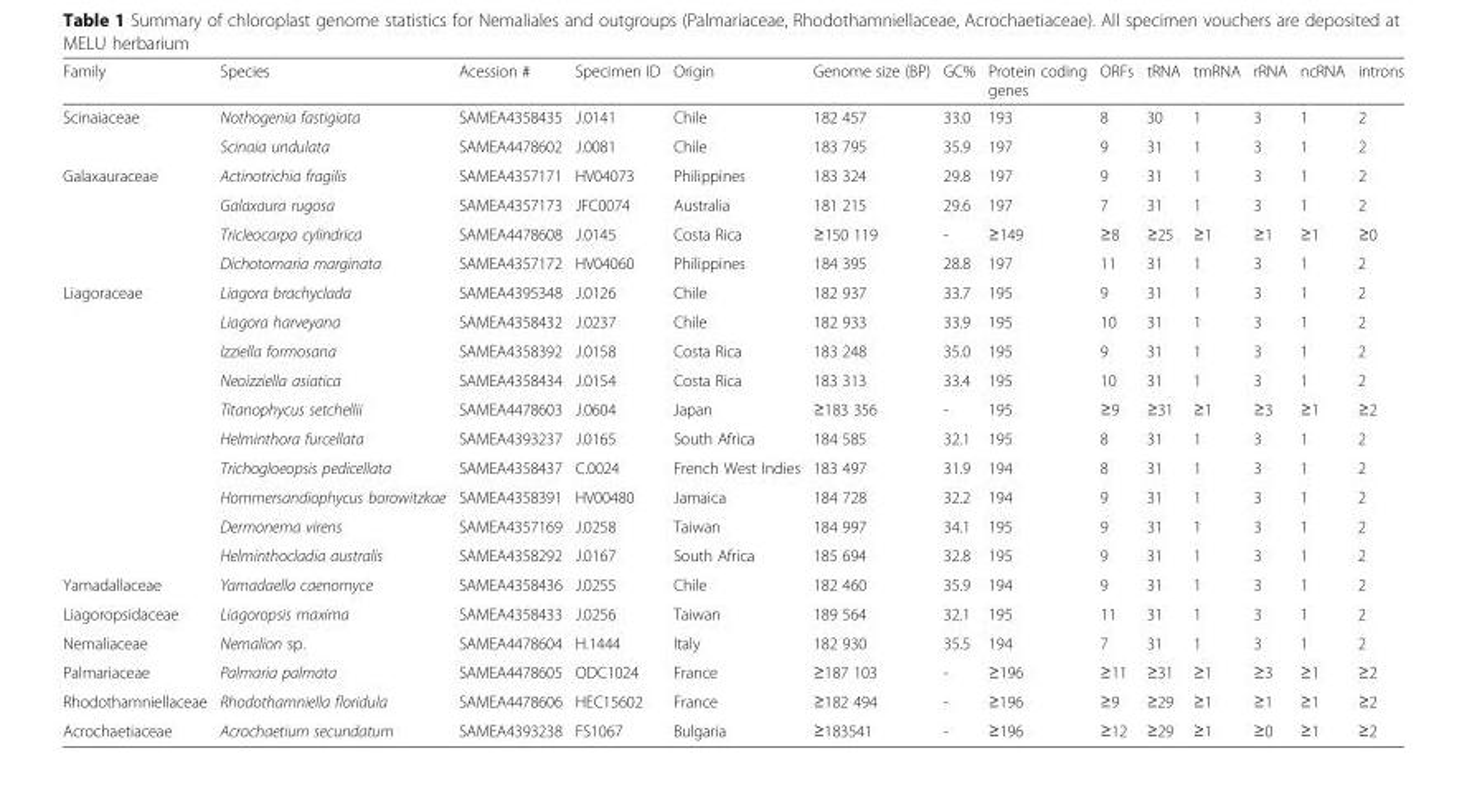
<table><thead><tr><td>Family</td><td>Species</td><td>Acession #</td><td>Specimen ID</td><td>Origin</td><td>Genome size (BP)</td><td>GC%</td><td>Protein coding genes</td><td>ORFs</td><td>tRNA</td><td>tmRNA</td><td>rRNA</td><td>ncRNA</td><td>introns</td></tr></thead><tbody><tr><td rowspan="2">Scinaiaceae</td><td>Nothogenia fastigiata</td><td>SAMEA4358435</td><td>J.0141</td><td>Chile</td><td>182 457</td><td>33.0</td><td>193</td><td>8</td><td>30</td><td>1</td><td>3</td><td>1</td><td>2</td></tr><tr><td>Scinaia undulata</td><td>SAMEA4478602</td><td>J.0081</td><td>Chile</td><td>183 795</td><td>35.9</td><td>197</td><td>9</td><td>31</td><td>1</td><td>3</td><td>1</td><td>2</td></tr><tr><td rowspan="4">Galaxauraceae</td><td>Actinotrichia fragilis</td><td>SAMEA4357171</td><td>HV04073</td><td>Philippines</td><td>183 324</td><td>29.8</td><td>197</td><td>9</td><td>31</td><td>1</td><td>3</td><td>1</td><td>2</td></tr><tr><td>Galaxaura rugosa</td><td>SAMEA4357173</td><td>JFC0074</td><td>Australia</td><td>181 215</td><td>29.6</td><td>197</td><td>7</td><td>31</td><td>1</td><td>3</td><td>1</td><td>2</td></tr><tr><td>Tricleocarpa cylindrica</td><td>SAMEA4478608</td><td>J.0145</td><td>Costa Rica</td><td>≥150 119</td><td>-</td><td>≥149</td><td>≥8</td><td>≥25</td><td>≥1</td><td>≥1</td><td>≥1</td><td>≥0</td></tr><tr><td>Dichotomaria marginata</td><td>SAMEA4357172</td><td>HV04060</td><td>Philippines</td><td>184 395</td><td>28.8</td><td>197</td><td>11</td><td>31</td><td>1</td><td>3</td><td>1</td><td>2</td></tr><tr><td rowspan="10">Liagoraceae</td><td>Liagora brachyclada</td><td>SAMEA4395348</td><td>J.0126</td><td>Chile</td><td>182 937</td><td>33.7</td><td>195</td><td>9</td><td>31</td><td>1</td><td>3</td><td>1</td><td>2</td></tr><tr><td>Liagora harveyana</td><td>SAMEA4358432</td><td>J.0237</td><td>Chile</td><td>182 933</td><td>33.9</td><td>195</td><td>10</td><td>31</td><td>1</td><td>3</td><td>1</td><td>2</td></tr><tr><td>Izziella formosana</td><td>SAMEA4358392</td><td>J.0158</td><td>Costa Rica</td><td>183 248</td><td>35.0</td><td>195</td><td>9</td><td>31</td><td>1</td><td>3</td><td>1</td><td>2</td></tr><tr><td>Neoizziella asiatica</td><td>SAMEA4358434</td><td>J.0154</td><td>Costa Rica</td><td>183 313</td><td>33.4</td><td>195</td><td>10</td><td>31</td><td>1</td><td>3</td><td>1</td><td>2</td></tr><tr><td>Titanophycus setchellii</td><td>SAMEA4478603</td><td>J.0604</td><td>Japan</td><td>≥183 356</td><td>-</td><td>195</td><td>≥9</td><td>≥31</td><td>≥1</td><td>≥3</td><td>≥1</td><td>≥2</td></tr><tr><td>Helminthora furcellata</td><td>SAMEA4393237</td><td>J.0165</td><td>South Africa</td><td>184 585</td><td>32.1</td><td>195</td><td>8</td><td>31</td><td>1</td><td>3</td><td>1</td><td>2</td></tr><tr><td>Trichogloeopsis pedicellata</td><td>SAMEA4358437</td><td>C.0024</td><td>French West Indies</td><td>183 497</td><td>31.9</td><td>194</td><td>8</td><td>31</td><td>1</td><td>3</td><td>1</td><td>2</td></tr><tr><td>Hommersandiophycus borowitzkae</td><td>SAMEA4358391</td><td>HV00480</td><td>Jamaica</td><td>184 728</td><td>32.2</td><td>194</td><td>9</td><td>31</td><td>1</td><td>3</td><td>1</td><td>2</td></tr><tr><td>Dermonema virens</td><td>SAMEA4357169</td><td>J.0258</td><td>Taiwan</td><td>184 997</td><td>34.1</td><td>195</td><td>9</td><td>31</td><td>1</td><td>3</td><td>1</td><td>2</td></tr><tr><td>Helminthocladia australis</td><td>SAMEA4358292</td><td>J.0167</td><td>South Africa</td><td>185 694</td><td>32.8</td><td>195</td><td>9</td><td>31</td><td>1</td><td>3</td><td>1</td><td>2</td></tr><tr><td>Yamadallaceae</td><td>Yamadaella caenomyce</td><td>SAMEA4358436</td><td>J.0255</td><td>Chile</td><td>182 460</td><td>35.9</td><td>194</td><td>9</td><td>31</td><td>1</td><td>3</td><td>1</td><td>2</td></tr><tr><td>Liagoropsidaceae</td><td>Liagoropsis maxima</td><td>SAMEA4358433</td><td>J.0256</td><td>Taiwan</td><td>189 564</td><td>32.1</td><td>195</td><td>11</td><td>31</td><td>1</td><td>3</td><td>1</td><td>2</td></tr><tr><td>Nemaliaceae</td><td>Nemalion sp.</td><td>SAMEA4478604</td><td>H.1444</td><td>Italy</td><td>182 930</td><td>35.5</td><td>194</td><td>7</td><td>31</td><td>1</td><td>3</td><td>1</td><td>2</td></tr><tr><td>Palmariaceae</td><td>Palmaria palmata</td><td>SAMEA4478605</td><td>ODC1024</td><td>France</td><td>≥187 103</td><td>-</td><td>≥196</td><td>≥11</td><td>≥31</td><td>≥1</td><td>≥3</td><td>≥1</td><td>≥2</td></tr><tr><td>Rhodothamniellaceae</td><td>Rhodothamniella floridula</td><td>SAMEA4478606</td><td>HEC15602</td><td>France</td><td>≥182 494</td><td>-</td><td>≥196</td><td>≥9</td><td>≥29</td><td>≥1</td><td>≥1</td><td>≥1</td><td>≥2</td></tr><tr><td>Acrochaetiaceae</td><td>Acrochaetium secundatum</td><td>SAMEA4393238</td><td>FS1067</td><td>Bulgaria</td><td>≥183541</td><td>-</td><td>≥196</td><td>≥12</td><td>≥29</td><td>≥1</td><td>≥0</td><td>≥1</td><td>≥2</td></tr></tbody></table>